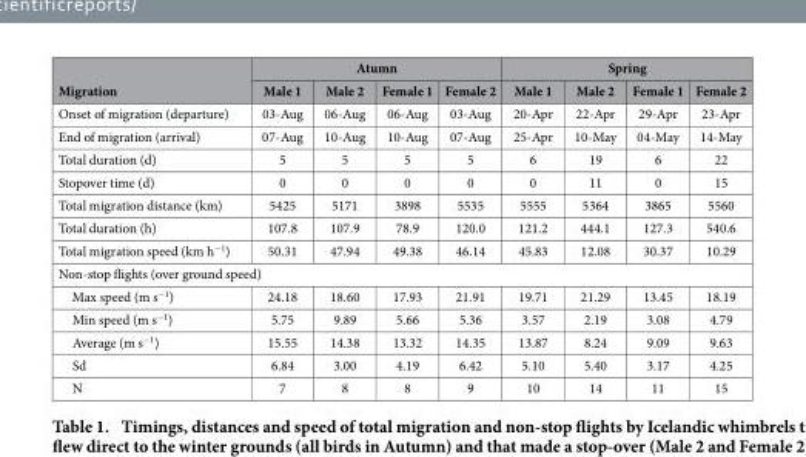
<table><thead><tr><td rowspan="2">Migration</td><td colspan="4">Atumn</td><td colspan="4">Spring</td></tr><tr><td>Male 1</td><td>Male 2</td><td>Female 1</td><td>Female 2</td><td>Male 1</td><td>Male 2</td><td>Female 1</td><td>Female 2</td></tr></thead><tbody><tr><td>Onset of migration (departure)</td><td>03-Aug</td><td>06-Aug</td><td>06-Aug</td><td>03-Aug</td><td>20-Apr</td><td>22-Apr</td><td>29-Apr</td><td>23-Apr</td></tr><tr><td>End of migration (arrival)</td><td>07-Aug</td><td>10-Aug</td><td>10-Aug</td><td>07-Aug</td><td>25-Apr</td><td>10-May</td><td>04-May</td><td>14-May</td></tr><tr><td>Total duration (d)</td><td>5</td><td>5</td><td>5</td><td>5</td><td>6</td><td>19</td><td>6</td><td>22</td></tr><tr><td>Stopover time (d)</td><td>0</td><td>0</td><td>0</td><td>0</td><td>0</td><td>11</td><td>0</td><td>15</td></tr><tr><td>Total migration distance (km)</td><td>5425</td><td>5171</td><td>3898</td><td>5535</td><td>5555</td><td>5364</td><td>3865</td><td>5560</td></tr><tr><td>Total duration (h)</td><td>107.8</td><td>107.9</td><td>78.9</td><td>120.0</td><td>121.2</td><td>444.1</td><td>127.3</td><td>540.6</td></tr><tr><td>Total migration speed (km h<sup>−1</sup>)</td><td>50.31</td><td>47.94</td><td>49.38</td><td>46.14</td><td>45.83</td><td>12.08</td><td>30.37</td><td>10.29</td></tr><tr><td colspan="9">Non-stop flights (over ground speed)</td></tr><tr><td>Max speed (m s<sup>−1</sup>)</td><td>24.18</td><td>18.60</td><td>17.93</td><td>21.91</td><td>19.71</td><td>21.29</td><td>13.45</td><td>18.19</td></tr><tr><td>Min speed (m s<sup>−1</sup>)</td><td>5.75</td><td>9.89</td><td>5.66</td><td>5.36</td><td>3.57</td><td>2.19</td><td>3.08</td><td>4.79</td></tr><tr><td>Average (m s<sup>−1</sup>)</td><td>15.55</td><td>14.38</td><td>13.32</td><td>14.35</td><td>13.87</td><td>8.24</td><td>9.09</td><td>9.63</td></tr><tr><td>Sd</td><td>6.84</td><td>3.00</td><td>4.19</td><td>6.42</td><td>5.10</td><td>5.40</td><td>3.17</td><td>4.25</td></tr><tr><td>N</td><td>7</td><td>8</td><td>8</td><td>9</td><td>10</td><td>14</td><td>11</td><td>15</td></tr></tbody></table>